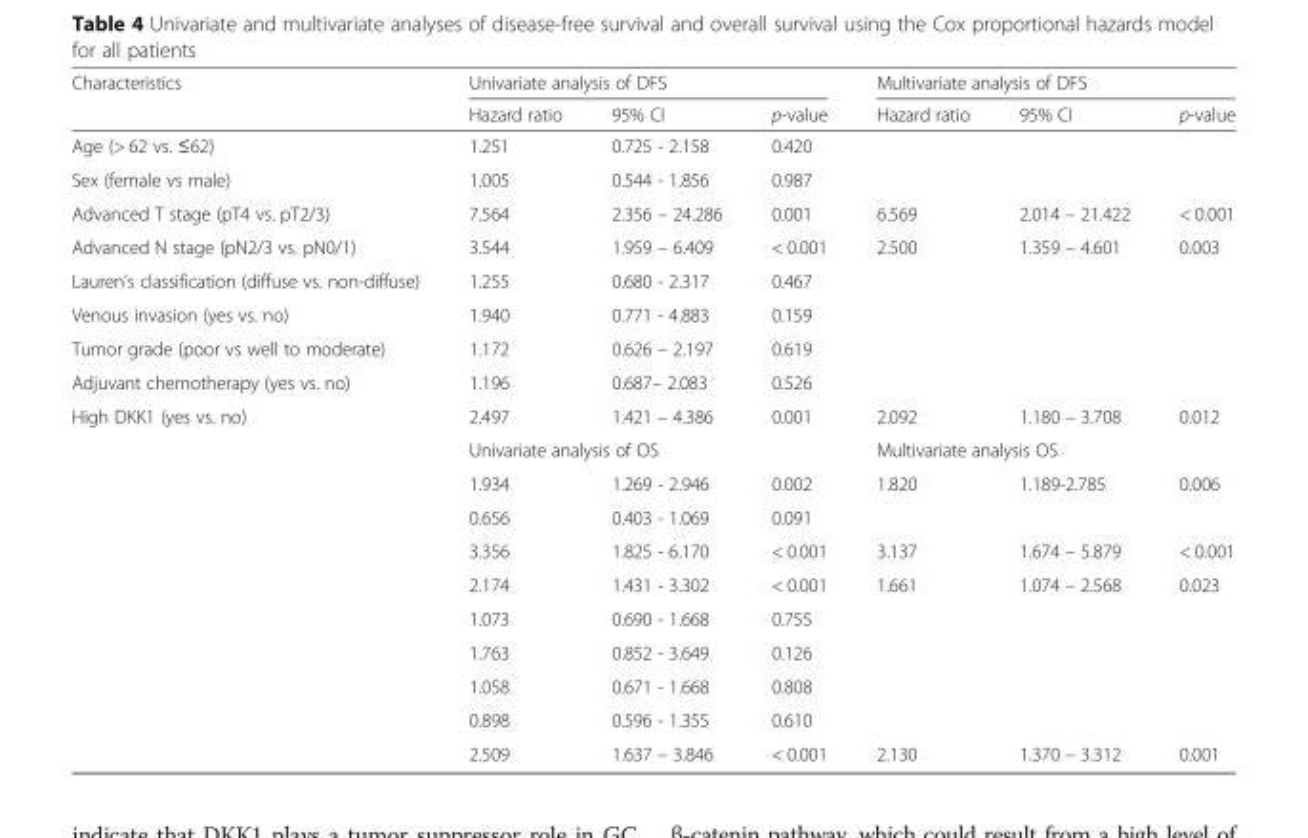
<table><thead><tr><td rowspan="2">Characteristics</td><td colspan="3">Univariate analysis of DFS</td><td colspan="3">Multivariate analysis of DFS</td></tr><tr><td>Hazard ratio</td><td>95% CI</td><td>p-value</td><td>Hazard ratio</td><td>95% CI</td><td>p-value</td></tr></thead><tbody><tr><td>Age (&gt; 62 vs. ≤62)</td><td>1.251</td><td>0.725 - 2.158</td><td>0.420</td><td></td><td></td><td></td></tr><tr><td>Sex (female vs male)</td><td>1.005</td><td>0.544 - 1.856</td><td>0.987</td><td></td><td></td><td></td></tr><tr><td>Advanced T stage (pT4 vs. pT2/3)</td><td>7.564</td><td>2.356 – 24.286</td><td>0.001</td><td>6.569</td><td>2.014 – 21.422</td><td>&lt; 0.001</td></tr><tr><td>Advanced N stage (pN2/3 vs. pN0/1)</td><td>3.544</td><td>1.959 – 6.409</td><td>&lt; 0.001</td><td>2.500</td><td>1.359 – 4.601</td><td>0.003</td></tr><tr><td>Lauren’s classification (diffuse vs. non-diffuse)</td><td>1.255</td><td>0.680 - 2.317</td><td>0.467</td><td></td><td></td><td></td></tr><tr><td>Venous invasion (yes vs. no)</td><td>1.940</td><td>0.771 - 4.883</td><td>0.159</td><td></td><td></td><td></td></tr><tr><td>Tumor grade (poor vs well to moderate)</td><td>1.172</td><td>0.626 – 2.197</td><td>0.619</td><td></td><td></td><td></td></tr><tr><td>Adjuvant chemotherapy (yes vs. no)</td><td>1.196</td><td>0.687– 2.083</td><td>0.526</td><td></td><td></td><td></td></tr><tr><td rowspan="11">High DKK1 (yes vs. no)</td><td>2.497</td><td>1.421 – 4.386</td><td>0.001</td><td>2.092</td><td>1.180 – 3.708</td><td>0.012</td></tr><tr><td colspan="3">Univariate analysis of OS</td><td colspan="3">Multivariate analysis OS</td></tr><tr><td>1.934</td><td>1.269 - 2.946</td><td>0.002</td><td>1.820</td><td>1.189-2.785</td><td>0.006</td></tr><tr><td>0.656</td><td>0.403 - 1.069</td><td>0.091</td><td></td><td></td><td></td></tr><tr><td>3.356</td><td>1.825 - 6.170</td><td>&lt; 0.001</td><td>3.137</td><td>1.674 – 5.879</td><td>&lt; 0.001</td></tr><tr><td>2.174</td><td>1.431 - 3.302</td><td>&lt; 0.001</td><td>1.661</td><td>1.074 – 2.568</td><td>0.023</td></tr><tr><td>1.073</td><td>0.690 - 1.668</td><td>0.755</td><td></td><td></td><td></td></tr><tr><td>1.763</td><td>0.852 - 3.649</td><td>0.126</td><td></td><td></td><td></td></tr><tr><td>1.058</td><td>0.671 - 1.668</td><td>0.808</td><td></td><td></td><td></td></tr><tr><td>0.898</td><td>0.596 - 1.355</td><td>0.610</td><td></td><td></td><td></td></tr><tr><td>2.509</td><td>1.637 – 3.846</td><td>&lt; 0.001</td><td>2.130</td><td>1.370 – 3.312</td><td>0.001</td></tr></tbody></table>